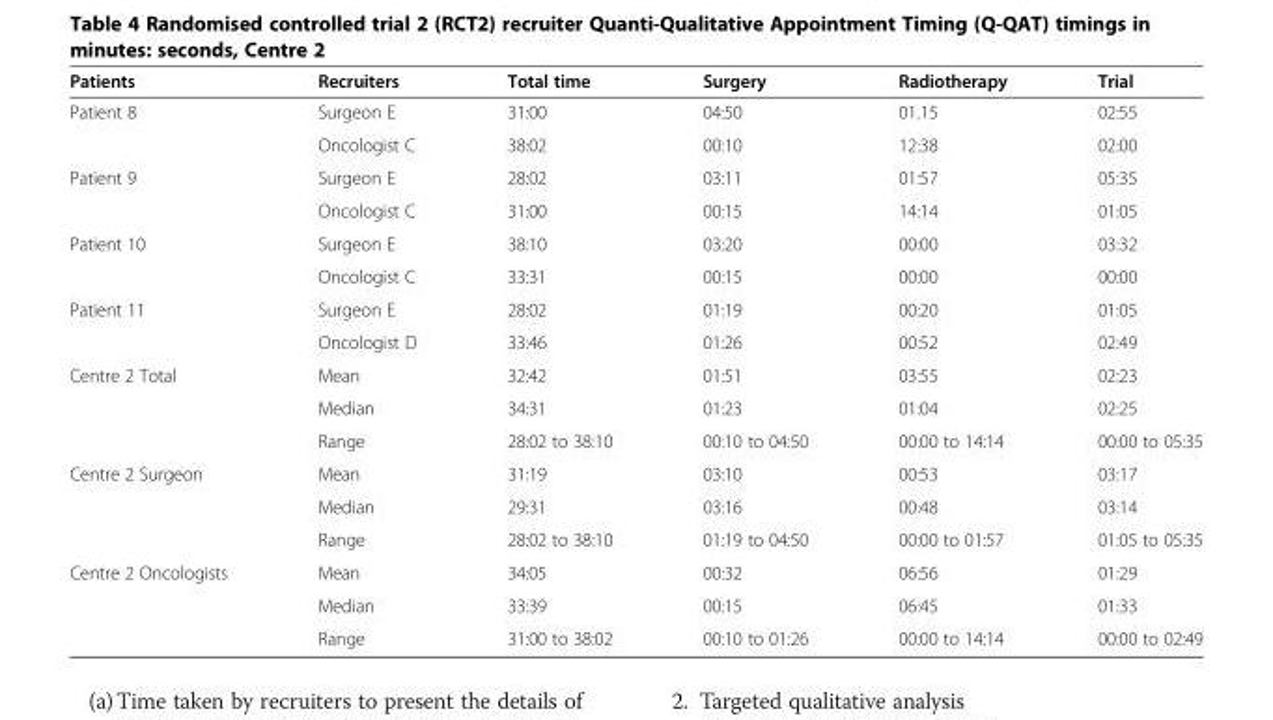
<table><thead><tr><td>Patients</td><td>Recruiters</td><td>Total time</td><td>Surgery</td><td>Radiotherapy</td><td>Trial</td></tr></thead><tbody><tr><td rowspan="2">Patient 8</td><td>Surgeon E</td><td>31:00</td><td>04:50</td><td>01.15</td><td>02:55</td></tr><tr><td>Oncologist C</td><td>38:02</td><td>00:10</td><td>12:38</td><td>02:00</td></tr><tr><td rowspan="2">Patient 9</td><td>Surgeon E</td><td>28:02</td><td>03:11</td><td>01:57</td><td>05:35</td></tr><tr><td>Oncologist C</td><td>31:00</td><td>00:15</td><td>14:14</td><td>01:05</td></tr><tr><td rowspan="2">Patient 10</td><td>Surgeon E</td><td>38:10</td><td>03:20</td><td>00:00</td><td>03:32</td></tr><tr><td>Oncologist C</td><td>33:31</td><td>00:15</td><td>00:00</td><td>00:00</td></tr><tr><td rowspan="2">Patient 11</td><td>Surgeon E</td><td>28:02</td><td>01:19</td><td>00:20</td><td>01:05</td></tr><tr><td>Oncologist D</td><td>33:46</td><td>01:26</td><td>00:52</td><td>02:49</td></tr><tr><td rowspan="3">Centre 2 Total</td><td>Mean</td><td>32:42</td><td>01:51</td><td>03:55</td><td>02:23</td></tr><tr><td>Median</td><td>34:31</td><td>01:23</td><td>01:04</td><td>02:25</td></tr><tr><td>Range</td><td>28:02 to 38:10</td><td>00:10 to 04:50</td><td>00:00 to 14:14</td><td>00:00 to 05:35</td></tr><tr><td rowspan="3">Centre 2 Surgeon</td><td>Mean</td><td>31:19</td><td>03:10</td><td>00:53</td><td>03:17</td></tr><tr><td>Median</td><td>29:31</td><td>03:16</td><td>00:48</td><td>03:14</td></tr><tr><td>Range</td><td>28:02 to 38:10</td><td>01:19 to 04:50</td><td>00:00 to 01:57</td><td>01:05 to 05:35</td></tr><tr><td rowspan="3">Centre 2 Oncologists</td><td>Mean</td><td>34:05</td><td>00:32</td><td>06:56</td><td>01:29</td></tr><tr><td>Median</td><td>33:39</td><td>00:15</td><td>06:45</td><td>01:33</td></tr><tr><td>Range</td><td>31:00 to 38:02</td><td>00:10 to 01:26</td><td>00:00 to 14:14</td><td>00:00 to 02:49</td></tr></tbody></table>